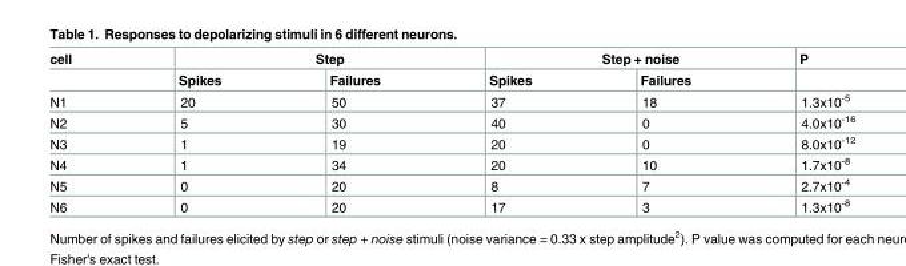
<table><thead><tr><td rowspan="2">cell</td><td colspan="2">Step</td><td colspan="2">Step + noise</td><td rowspan="2">P</td></tr><tr><td>Spikes</td><td>Failures</td><td>Spikes</td><td>Failures</td></tr></thead><tbody><tr><td>N1</td><td>20</td><td>50</td><td>37</td><td>18</td><td>1.3x10<sup>-5</sup></td></tr><tr><td>N2</td><td>5</td><td>30</td><td>40</td><td>0</td><td>4.0x10<sup>-16</sup></td></tr><tr><td>N3</td><td>1</td><td>19</td><td>20</td><td>0</td><td>8.0x10<sup>-12</sup></td></tr><tr><td>N4</td><td>1</td><td>34</td><td>20</td><td>10</td><td>1.7x10<sup>-8</sup></td></tr><tr><td>N5</td><td>0</td><td>20</td><td>8</td><td>7</td><td>2.7x10<sup>-4</sup></td></tr><tr><td>N6</td><td>0</td><td>20</td><td>17</td><td>3</td><td>1.3x10<sup>-8</sup></td></tr></tbody></table>